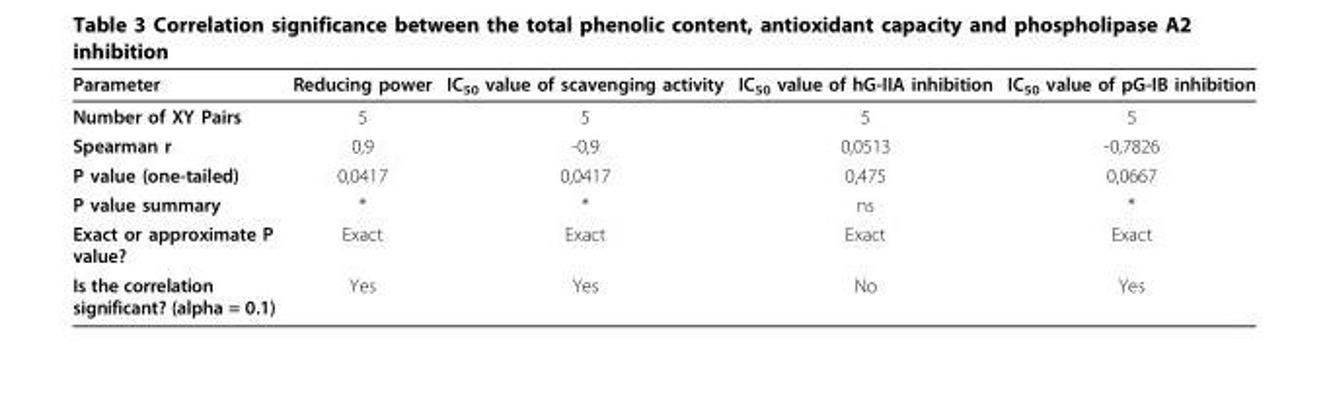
<table><thead><tr><td>Parameter</td><td>Reducing power</td><td>IC<sub>50</sub> value of scavenging activity</td><td>IC<sub>50</sub> value of hG-IIA inhibition</td><td>IC<sub>50</sub> value of pG-IB inhibition</td></tr></thead><tbody><tr><td>Number of XY Pairs</td><td>5</td><td>5</td><td>5</td><td>5</td></tr><tr><td>Spearman r</td><td>0,9</td><td>-0,9</td><td>0,0513</td><td>-0,7826</td></tr><tr><td>P value (one-tailed)</td><td>0,0417</td><td>0,0417</td><td>0,475</td><td>0,0667</td></tr><tr><td>P value summary</td><td>*</td><td>*</td><td>ns</td><td>*</td></tr><tr><td>Exact or approximate P value?</td><td>Exact</td><td>Exact</td><td>Exact</td><td>Exact</td></tr><tr><td>Is the correlation significant? (alpha = 0.1)</td><td>Yes</td><td>Yes</td><td>No</td><td>Yes</td></tr></tbody></table>